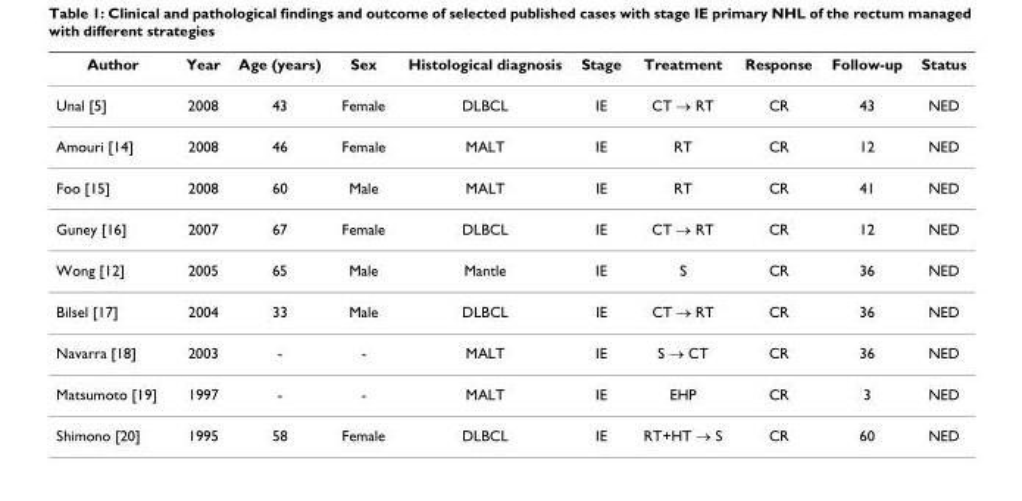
<table><thead><tr><td>Author</td><td>Year</td><td>Age (years)</td><td>Sex</td><td>Histological diagnosis</td><td>Stage</td><td>Treatment</td><td>Response</td><td>Follow-up</td><td>Status</td></tr></thead><tbody><tr><td>Unal [5]</td><td>2008</td><td>43</td><td>Female</td><td>DLBCL</td><td>IE</td><td>CT → RT</td><td>CR</td><td>43</td><td>NED</td></tr><tr><td>Amouri [14]</td><td>2008</td><td>46</td><td>Female</td><td>MALT</td><td>IE</td><td>RT</td><td>CR</td><td>12</td><td>NED</td></tr><tr><td>Foo [15]</td><td>2008</td><td>60</td><td>Male</td><td>MALT</td><td>IE</td><td>RT</td><td>CR</td><td>41</td><td>NED</td></tr><tr><td>Guney [16]</td><td>2007</td><td>67</td><td>Female</td><td>DLBCL</td><td>IE</td><td>CT → RT</td><td>CR</td><td>12</td><td>NED</td></tr><tr><td>Wong [12]</td><td>2005</td><td>65</td><td>Male</td><td>Mantle</td><td>IE</td><td>S</td><td>CR</td><td>36</td><td>NED</td></tr><tr><td>Bilsel [17]</td><td>2004</td><td>33</td><td>Male</td><td>DLBCL</td><td>IE</td><td>CT → RT</td><td>CR</td><td>36</td><td>NED</td></tr><tr><td>Navarra [18]</td><td>2003</td><td>-</td><td>-</td><td>MALT</td><td>IE</td><td>S → CT</td><td>CR</td><td>36</td><td>NED</td></tr><tr><td>Matsumoto [19]</td><td>1997</td><td>-</td><td>-</td><td>MALT</td><td>IE</td><td>EHP</td><td>CR</td><td>3</td><td>NED</td></tr><tr><td>Shimono [20]</td><td>1995</td><td>58</td><td>Female</td><td>DLBCL</td><td>IE</td><td>RT+HT → S</td><td>CR</td><td>60</td><td>NED</td></tr></tbody></table>